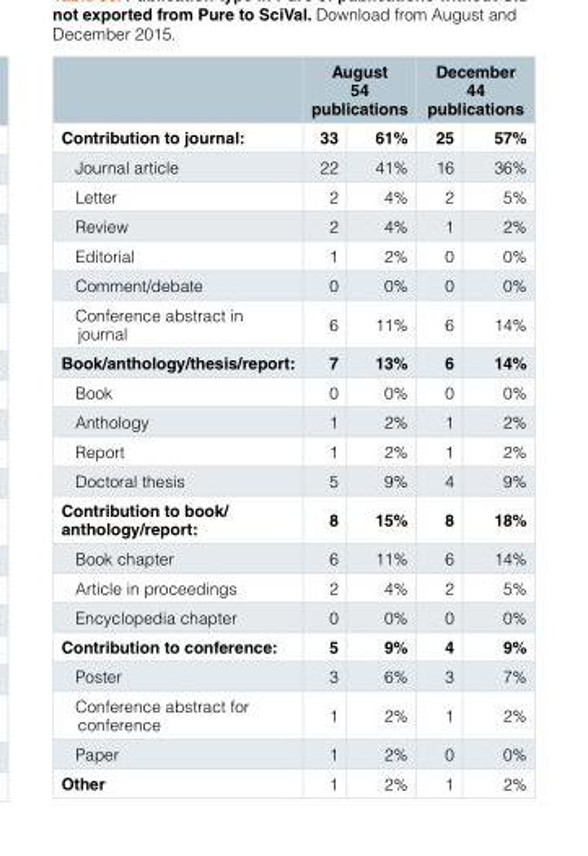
<table><thead><tr><td rowspan="2">Contribution to journal:</td><td colspan="2">August 54 publications</td><td colspan="2">December 44 publications</td></tr><tr><td>33</td><td>61%</td><td>25</td><td>57%</td></tr></thead><tbody><tr><td>Journal article</td><td>22</td><td>41%</td><td>16</td><td>36%</td></tr><tr><td>Letter</td><td>2</td><td>4%</td><td>2</td><td>5%</td></tr><tr><td>Review</td><td>2</td><td>4%</td><td>1</td><td>2%</td></tr><tr><td>Editorial</td><td>1</td><td>2%</td><td>0</td><td>0%</td></tr><tr><td>Comment/debate</td><td>0</td><td>0%</td><td>0</td><td>0%</td></tr><tr><td>Conference abstract in journal</td><td>6</td><td>11%</td><td>6</td><td>14%</td></tr><tr><td>Book/anthology/thesis/report:</td><td>7</td><td>13%</td><td>6</td><td>14%</td></tr><tr><td>Book</td><td>0</td><td>0%</td><td>0</td><td>0%</td></tr><tr><td>Anthology</td><td>1</td><td>2%</td><td>1</td><td>2%</td></tr><tr><td>Report</td><td>1</td><td>2%</td><td>1</td><td>2%</td></tr><tr><td>Doctoral thesis</td><td>5</td><td>9%</td><td>4</td><td>9%</td></tr><tr><td>Contribution to book/ anthology/report:</td><td>8</td><td>15%</td><td>8</td><td>18%</td></tr><tr><td>Book chapter</td><td>6</td><td>11%</td><td>6</td><td>14%</td></tr><tr><td>Article in proceedings</td><td>2</td><td>4%</td><td>2</td><td>5%</td></tr><tr><td>Encyclopedia chapter</td><td>0</td><td>0%</td><td>0</td><td>0%</td></tr><tr><td>Contribution to conference:</td><td>5</td><td>9%</td><td>4</td><td>9%</td></tr><tr><td>Poster</td><td>3</td><td>6%</td><td>3</td><td>7%</td></tr><tr><td>Conference abstract for conference</td><td>1</td><td>2%</td><td>1</td><td>2%</td></tr><tr><td>Paper</td><td>1</td><td>2%</td><td>0</td><td>0%</td></tr><tr><td>Other</td><td>1</td><td>2%</td><td>1</td><td>2%</td></tr></tbody></table>